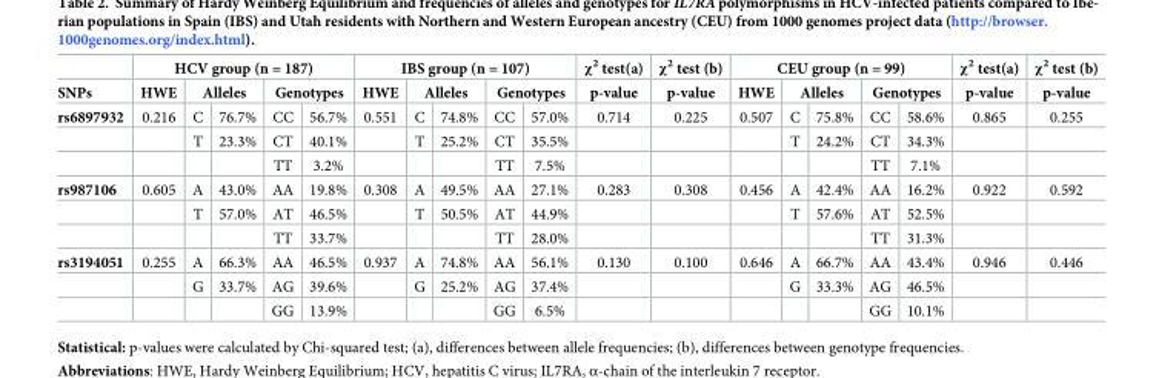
<table><thead><tr><td rowspan="3">SNPs rs6897932</td><td colspan="5">HCV group (n = 187)</td><td colspan="5">IBS group (n = 107)</td><td rowspan="3">χ<sup>2</sup> test(a) p-value 0.714</td><td rowspan="3">χ<sup>2</sup> test (b) p-value 0.225</td><td colspan="5">CEU group (n = 99)</td><td rowspan="3">χ<sup>2</sup> test(a) p-value 0.865</td><td rowspan="3">χ<sup>2</sup> test (b) p-value 0.255</td></tr><tr><td rowspan="2">HWE 0.216</td><td colspan="2">Alleles</td><td colspan="2">Genotypes</td><td rowspan="2">HWE 0.551</td><td colspan="2">Alleles</td><td colspan="2">Genotypes</td><td rowspan="2">HWE 0.507</td><td colspan="2">Alleles</td><td colspan="2">Genotypes</td></tr><tr><td>C</td><td>76.7%</td><td>CC</td><td>56.7%</td><td>C</td><td>74.8%</td><td>CC</td><td>57.0%</td><td>C</td><td>75.8%</td><td>CC</td><td>58.6%</td></tr></thead><tbody><tr><td></td><td></td><td>T</td><td>23.3%</td><td>CT</td><td>40.1%</td><td></td><td>T</td><td>25.2%</td><td>CT</td><td>35.5%</td><td></td><td></td><td></td><td>T</td><td>24.2%</td><td>CT</td><td>34.3%</td><td></td><td></td></tr><tr><td></td><td></td><td></td><td></td><td>TT</td><td>3.2%</td><td></td><td></td><td></td><td>TT</td><td>7.5%</td><td></td><td></td><td></td><td></td><td></td><td>TT</td><td>7.1%</td><td></td><td></td></tr><tr><td rowspan="3">rs987106</td><td>0.605</td><td>A</td><td>43.0%</td><td>AA</td><td>19.8%</td><td>0.308</td><td>A</td><td>49.5%</td><td>AA</td><td>27.1%</td><td>0.283</td><td>0.308</td><td>0.456</td><td>A</td><td>42.4%</td><td>AA</td><td>16.2%</td><td>0.922</td><td>0.592</td></tr><tr><td></td><td>T</td><td>57.0%</td><td>AT</td><td>46.5%</td><td></td><td>T</td><td>50.5%</td><td>AT</td><td>44.9%</td><td></td><td></td><td></td><td>T</td><td>57.6%</td><td>AT</td><td>52.5%</td><td></td><td></td></tr><tr><td></td><td></td><td></td><td>TT</td><td>33.7%</td><td></td><td></td><td></td><td>TT</td><td>28.0%</td><td></td><td></td><td></td><td></td><td></td><td>TT</td><td>31.3%</td><td></td><td></td></tr><tr><td rowspan="3">rs3194051</td><td>0.255</td><td>A</td><td>66.3%</td><td>AA</td><td>46.5%</td><td>0.937</td><td>A</td><td>74.8%</td><td>AA</td><td>56.1%</td><td>0.130</td><td>0.100</td><td>0.646</td><td>A</td><td>66.7%</td><td>AA</td><td>43.4%</td><td>0.946</td><td>0.446</td></tr><tr><td></td><td>G</td><td>33.7%</td><td>AG</td><td>39.6%</td><td></td><td>G</td><td>25.2%</td><td>AG</td><td>37.4%</td><td></td><td></td><td></td><td>G</td><td>33.3%</td><td>AG</td><td>46.5%</td><td></td><td></td></tr><tr><td></td><td></td><td></td><td>GG</td><td>13.9%</td><td></td><td></td><td></td><td>GG</td><td>6.5%</td><td></td><td></td><td></td><td></td><td></td><td>GG</td><td>10.1%</td><td></td><td></td></tr></tbody></table>